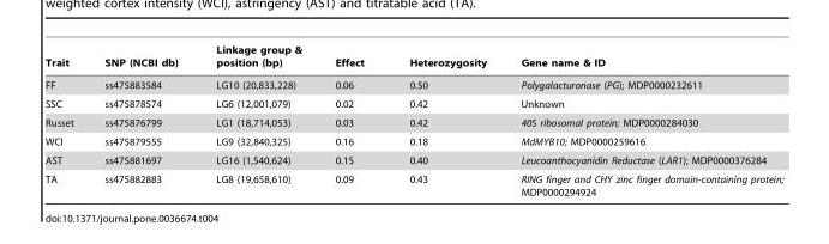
<table><thead><tr><td>Trait</td><td>SNP (NCBI db)</td><td>Linkage group &amp; position (bp)</td><td>Effect</td><td>Heterozygosity</td><td>Gene name &amp; ID</td></tr></thead><tbody><tr><td>FF</td><td>ss475883584</td><td>LG10 (20,833,228)</td><td>0.06</td><td>0.50</td><td>Polygalacturonase (PG); MDP0000232611</td></tr><tr><td>SSC</td><td>ss475878574</td><td>LG6 (12,001,079)</td><td>0.02</td><td>0.42</td><td>Unknown</td></tr><tr><td>Russet</td><td>ss475876799</td><td>LG1 (18,714,053)</td><td>0.03</td><td>0.42</td><td>40S ribosomal protein; MDP0000284030</td></tr><tr><td>WCI</td><td>ss475879555</td><td>LG9 (32,840,325)</td><td>0.16</td><td>0.18</td><td>MdMYB10; MDP0000259616</td></tr><tr><td>AST</td><td>ss475881697</td><td>LG16 (1,540,624)</td><td>0.15</td><td>0.40</td><td>Leucoanthocyanidin Reductase (LAR1); MDP0000376284</td></tr><tr><td>TA</td><td>ss475882883</td><td>LG8 (19,658,610)</td><td>0.09</td><td>0.43</td><td>RING finger and CHY zinc finger domain-containing protein; MDP0000294924</td></tr></tbody></table>